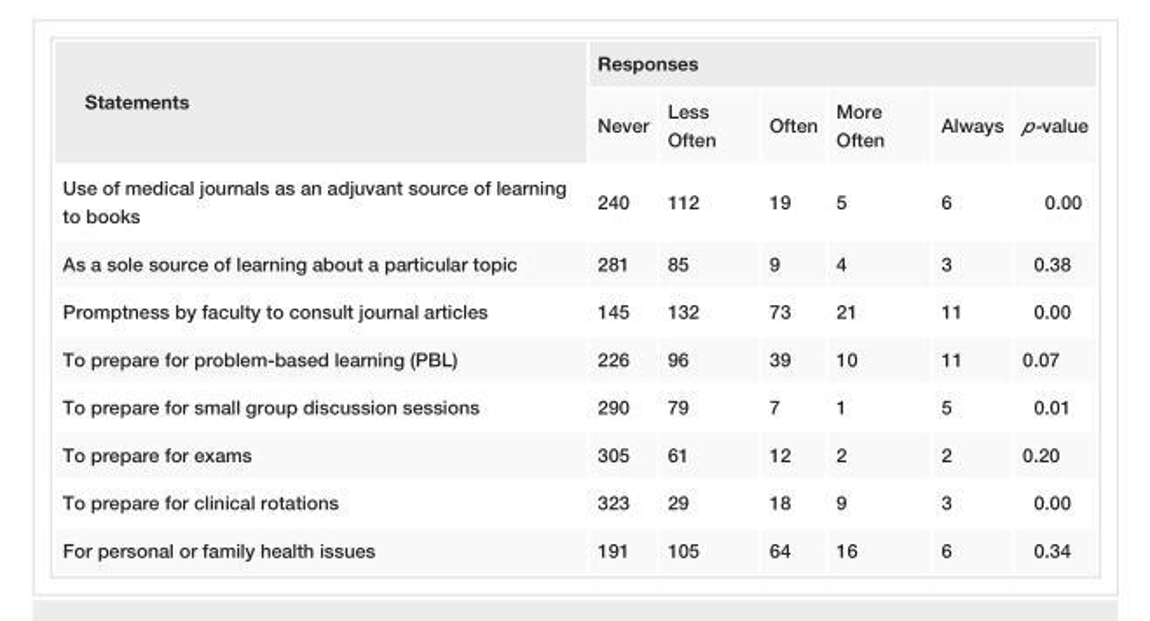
<table><tbody><tr><td rowspan="2">Statements</td><td colspan="6">Responses</td></tr><tr><td>Never</td><td>Less Often</td><td>Often</td><td>More Often</td><td>Always</td><td>p-value</td></tr><tr><td>Use of medical journals as an adjuvant source of learning to books</td><td>240</td><td>112</td><td>19</td><td>5</td><td>6</td><td>0.00</td></tr><tr><td>As a sole source of learning about a particular topic</td><td>281</td><td>85</td><td>9</td><td>4</td><td>3</td><td>0.38</td></tr><tr><td>Promptness by faculty to consult journal articles</td><td>145</td><td>132</td><td>73</td><td>21</td><td>11</td><td>0.00</td></tr><tr><td>To prepare for problem-based learning (PBL)</td><td>226</td><td>96</td><td>39</td><td>10</td><td>11</td><td>0.07</td></tr><tr><td>To prepare for small group discussion sessions</td><td>290</td><td>79</td><td>7</td><td>1</td><td>5</td><td>0.01</td></tr><tr><td>To prepare for exams</td><td>305</td><td>61</td><td>12</td><td>2</td><td>2</td><td>0.20</td></tr><tr><td>To prepare for clinical rotations</td><td>323</td><td>29</td><td>18</td><td>9</td><td>3</td><td>0.00</td></tr><tr><td>For personal or family health issues</td><td>191</td><td>105</td><td>64</td><td>16</td><td>6</td><td>0.34</td></tr></tbody></table>